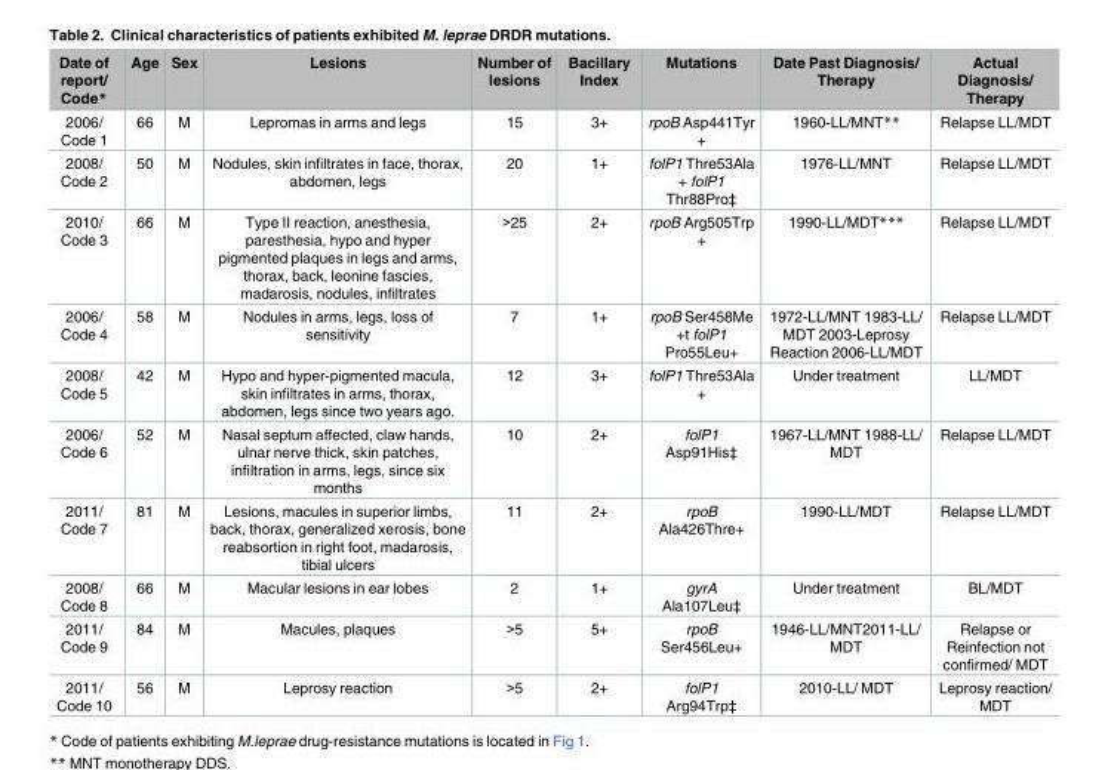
<table><thead><tr><td>Date of report/ Code*</td><td>Age</td><td>Sex</td><td>Lesions</td><td>Number of lesions</td><td>Bacillary Index</td><td>Mutations</td><td>Date Past Diagnosis/ Therapy</td><td>Actual Diagnosis/ Therapy</td></tr></thead><tbody><tr><td>2006/ Code 1</td><td>66</td><td>M</td><td>Lepromas in arms and legs</td><td>15</td><td>3+</td><td>rpoB Asp441Tyr +</td><td>1960-LL/MNT**</td><td>Relapse LL/MDT</td></tr><tr><td>2008/ Code 2</td><td>50</td><td>M</td><td>Nodules, skin infiltrates in face, thorax, abdomen, legs</td><td>20</td><td>1+</td><td>folP1 Thre53Ala + folP1 Thr88Pro‡</td><td>1976-LL/MNT</td><td>Relapse LL/MDT</td></tr><tr><td>2010/ Code 3</td><td>66</td><td>M</td><td>Type II reaction, anesthesia, paresthesia, hypo and hyper pigmented plaques in legs and arms, thorax, back, leonine fascies, madarosis, nodules, infiltrates</td><td>&gt;25</td><td>2+</td><td>rpoB Arg505Trp +</td><td>1990-LL/MDT***</td><td>Relapse LL/MDT</td></tr><tr><td>2006/ Code 4</td><td>58</td><td>M</td><td>Nodules in arms, legs, loss of sensitivity</td><td>7</td><td>1+</td><td>rpoB Ser458Me +t folP1 Pro55Leu+</td><td>1972-LL/MNT 1983-LL/ MDT 2003-Leprosy Reaction 2006-LL/MDT</td><td>Relapse LL/MDT</td></tr><tr><td>2008/ Code 5</td><td>42</td><td>M</td><td>Hypo and hyper-pigmented macula, skin infiltrates in arms, thorax, abdomen, legs since two years ago.</td><td>12</td><td>3+</td><td>folP1 Thre53Ala +</td><td>Under treatment</td><td>LL/MDT</td></tr><tr><td>2006/ Code 6</td><td>52</td><td>M</td><td>Nasal septum affected, claw hands, ulnar nerve thick, skin patches, infiltration in arms, legs, since six months</td><td>10</td><td>2+</td><td>folP1 Asp91His‡</td><td>1967-LL/MNT 1988-LL/ MDT</td><td>Relapse LL/MDT</td></tr><tr><td>2011/ Code 7</td><td>81</td><td>M</td><td>Lesions, macules in superior limbs, back, thorax, generalized xerosis, bone reabsortion in right foot, madarosis, tibial ulcers</td><td>11</td><td>2+</td><td>rpoB Ala426Thre+</td><td>1990-LL/MDT</td><td>Relapse LL/MDT</td></tr><tr><td>2008/ Code 8</td><td>66</td><td>M</td><td>Macular lesions in ear lobes</td><td>2</td><td>1+</td><td>gyrA Ala107Leu‡</td><td>Under treatment</td><td>BL/MDT</td></tr><tr><td>2011/ Code 9</td><td>84</td><td>M</td><td>Macules, plaques</td><td>&gt;5</td><td>5+</td><td>rpoB Ser456Leu+</td><td>1946-LL/MNT2011-LL/ MDT</td><td>Relapse or Reinfection not confirmed/ MDT</td></tr><tr><td>2011/ Code 10</td><td>56</td><td>M</td><td>Leprosy reaction</td><td>&gt;5</td><td>2+</td><td>folP1 Arg94Trp‡</td><td>2010-LL/ MDT</td><td>Leprosy reaction/ MDT</td></tr></tbody></table>